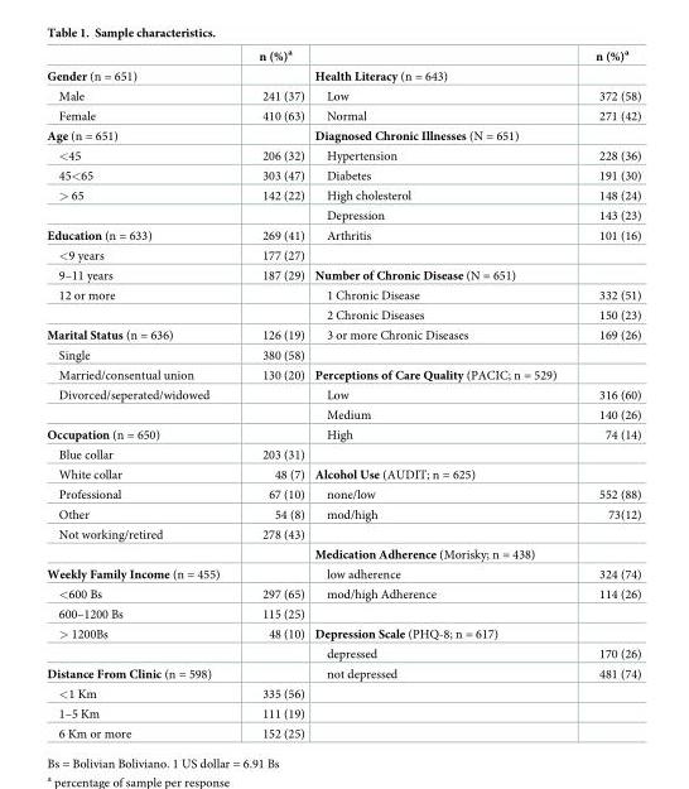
<table><thead><tr><td></td><td>n (%)<sup>a</sup></td><td></td><td>n (%)<sup>a</sup></td></tr></thead><tbody><tr><td>Gender (n = 651)</td><td></td><td>Health Literacy (n = 643)</td><td></td></tr><tr><td>Male</td><td>241 (37)</td><td>Low</td><td>372 (58)</td></tr><tr><td>Female</td><td>410 (63)</td><td>Normal</td><td>271 (42)</td></tr><tr><td>Age (n = 651)</td><td></td><td>Diagnosed Chronic Illnesses (N = 651)</td><td></td></tr><tr><td>&lt;45</td><td>206 (32)</td><td>Hypertension</td><td>228 (36)</td></tr><tr><td>45&lt;65</td><td>303 (47)</td><td>Diabetes</td><td>191 (30)</td></tr><tr><td rowspan="2">&gt; 65</td><td>142 (22)</td><td>High cholesterol</td><td>148 (24)</td></tr><tr><td></td><td>Depression</td><td>143 (23)</td></tr><tr><td>Education (n = 633)</td><td>269 (41)</td><td>Arthritis</td><td>101 (16)</td></tr><tr><td>&lt;9 years</td><td>177 (27)</td><td></td><td></td></tr><tr><td>9–11 years</td><td>187 (29)</td><td>Number of Chronic Disease (N = 651)</td><td></td></tr><tr><td rowspan="2">12 or more</td><td></td><td>1 Chronic Disease</td><td>332 (51)</td></tr><tr><td></td><td>2 Chronic Diseases</td><td>150 (23)</td></tr><tr><td>Marital Status (n = 636)</td><td>126 (19)</td><td>3 or more Chronic Diseases</td><td>169 (26)</td></tr><tr><td>Single</td><td>380 (58)</td><td></td><td></td></tr><tr><td>Married/consentual union</td><td>130 (20)</td><td>Perceptions of Care Quality (PACIC; n = 529)</td><td></td></tr><tr><td rowspan="2">Divorced/seperated/widowed</td><td></td><td>Low</td><td>316 (60)</td></tr><tr><td></td><td>Medium</td><td>140 (26)</td></tr><tr><td>Occupation (n = 650)</td><td></td><td>High</td><td>74 (14)</td></tr><tr><td>Blue collar</td><td>203 (31)</td><td></td><td></td></tr><tr><td>White collar</td><td>48 (7)</td><td>Alcohol Use (AUDIT; n = 625)</td><td></td></tr><tr><td>Professional</td><td>67 (10)</td><td>none/low</td><td>552 (88)</td></tr><tr><td>Other</td><td>54 (8)</td><td>mod/high</td><td>73(12)</td></tr><tr><td rowspan="2">Not working/retired</td><td>278 (43)</td><td></td><td></td></tr><tr><td></td><td>Medication Adherence (Morisky; n = 438)</td><td></td></tr><tr><td>Weekly Family Income (n = 455)</td><td></td><td>low adherence</td><td>324 (74)</td></tr><tr><td>&lt;600 Bs</td><td>297 (65)</td><td>mod/high Adherence</td><td>114 (26)</td></tr><tr><td>600–1200 Bs</td><td>115 (25)</td><td></td><td></td></tr><tr><td rowspan="2">&gt; 1200Bs</td><td>48 (10)</td><td>Depression Scale (PHQ-8; n = 617)</td><td></td></tr><tr><td></td><td>depressed</td><td>170 (26)</td></tr><tr><td>Distance From Clinic (n = 598)</td><td></td><td>not depressed</td><td>481 (74)</td></tr><tr><td>&lt;1 Km</td><td>335 (56)</td><td></td><td></td></tr><tr><td>1–5 Km</td><td>111 (19)</td><td></td><td></td></tr><tr><td>6 Km or more</td><td>152 (25)</td><td></td><td></td></tr></tbody></table>